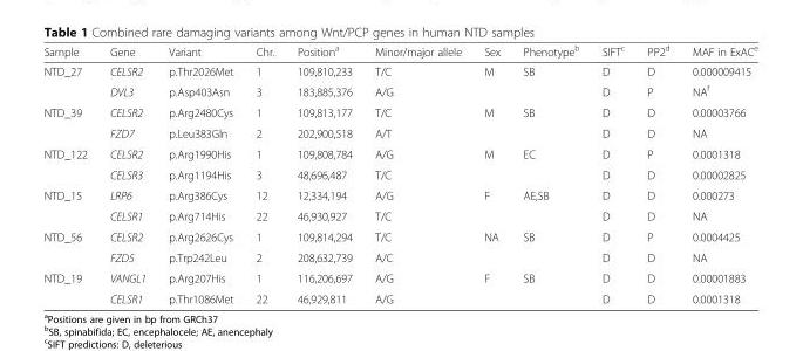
<table><thead><tr><td>Sample</td><td>Gene</td><td>Variant</td><td>Chr.</td><td>Position<sup>a</sup></td><td>Minor/major allele</td><td>Sex</td><td>Phenotype<sup>b</sup></td><td>SIFT<sup>c</sup></td><td>PP2<sup>d</sup></td><td>MAF in ExAC<sup>e</sup></td></tr></thead><tbody><tr><td rowspan="2">NTD_27</td><td>CELSR2</td><td>p.Thr2026Met</td><td>1</td><td>109,810,233</td><td>T/C</td><td>M</td><td>SB</td><td>D</td><td>D</td><td>0.000009415</td></tr><tr><td>DVL3</td><td>p.Asp403Asn</td><td>3</td><td>183,885,376</td><td>A/G</td><td></td><td></td><td>D</td><td>P</td><td>NA<sup>f</sup></td></tr><tr><td rowspan="2">NTD_39</td><td>CELSR2</td><td>p.Arg2480Cys</td><td>1</td><td>109,813,177</td><td>T/C</td><td>M</td><td>SB</td><td>D</td><td>D</td><td>0.00003766</td></tr><tr><td>FZD7</td><td>p.Leu383Gln</td><td>2</td><td>202,900,518</td><td>A/T</td><td></td><td></td><td>D</td><td>D</td><td>NA</td></tr><tr><td rowspan="2">NTD_122</td><td>CELSR2</td><td>p.Arg1990His</td><td>1</td><td>109,808,784</td><td>A/G</td><td>M</td><td>EC</td><td>D</td><td>P</td><td>0.0001318</td></tr><tr><td>CELSR3</td><td>p.Arg1194His</td><td>3</td><td>48,696,487</td><td>T/C</td><td></td><td></td><td>D</td><td>D</td><td>0.00002825</td></tr><tr><td rowspan="2">NTD_15</td><td>LRP6</td><td>p.Arg386Cys</td><td>12</td><td>12,334,194</td><td>A/G</td><td>F</td><td>AE,SB</td><td>D</td><td>D</td><td>0.000273</td></tr><tr><td>CELSR1</td><td>p.Arg714His</td><td>22</td><td>46,930,927</td><td>T/C</td><td></td><td></td><td>D</td><td>D</td><td>NA</td></tr><tr><td rowspan="2">NTD_56</td><td>CELSR2</td><td>p.Arg2626Cys</td><td>1</td><td>109,814,294</td><td>T/C</td><td>NA</td><td>SB</td><td>D</td><td>P</td><td>0.0004425</td></tr><tr><td>FZD5</td><td>p.Trp242Leu</td><td>2</td><td>208,632,739</td><td>A/C</td><td></td><td></td><td>D</td><td>D</td><td>NA</td></tr><tr><td rowspan="2">NTD_19</td><td>VANGL1</td><td>p.Arg207His</td><td>1</td><td>116,206,697</td><td>A/G</td><td>F</td><td>SB</td><td>D</td><td>D</td><td>0.00001883</td></tr><tr><td>CELSR1</td><td>p.Thr1086Met</td><td>22</td><td>46,929,811</td><td>A/G</td><td></td><td></td><td>D</td><td>D</td><td>0.0001318</td></tr></tbody></table>